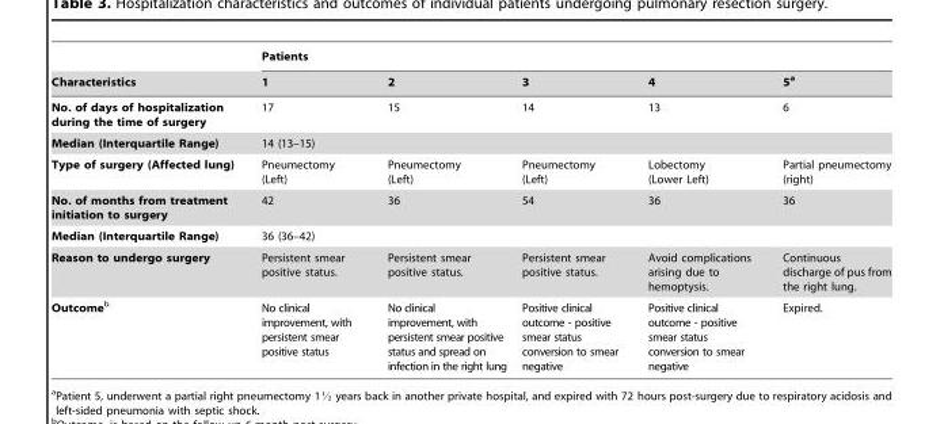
<table><thead><tr><td rowspan="2">Characteristics</td><td colspan="5">Patients</td></tr><tr><td>1</td><td>2</td><td>3</td><td>4</td><td>5<sup>a</sup></td></tr></thead><tbody><tr><td>No. of days of hospitalization during the time of surgery</td><td>17</td><td>15</td><td>14</td><td>13</td><td>6</td></tr><tr><td>Median (Interquartile Range)</td><td colspan="5">14 (13–15)</td></tr><tr><td>Type of surgery (Affected lung)</td><td>Pneumectomy (Left)</td><td>Pneumectomy (Left)</td><td>Pneumectomy (Left)</td><td>Lobectomy (Lower Left)</td><td>Partial pneumectomy (right)</td></tr><tr><td>No. of months from treatment initiation to surgery</td><td>42</td><td>36</td><td>54</td><td>36</td><td>36</td></tr><tr><td>Median (Interquartile Range)</td><td colspan="5">36 (36–42)</td></tr><tr><td>Reason to undergo surgery</td><td>Persistent smear positive status.</td><td>Persistent smear positive status.</td><td>Persistent smear positive status.</td><td>Avoid complications arising due to hemoptysis.</td><td>Continuous discharge of pus from the right lung.</td></tr><tr><td>Outcomeb</td><td>No clinical improvement, with persistent smear positive status</td><td>No clinical improvement, with persistent smear positive status and spread on infection in the right lung</td><td>Positive clinical outcome - positive smear status conversion to smear negative</td><td>Positive clinical outcome - positive smear status conversion to smear negative</td><td>Expired.</td></tr></tbody></table>